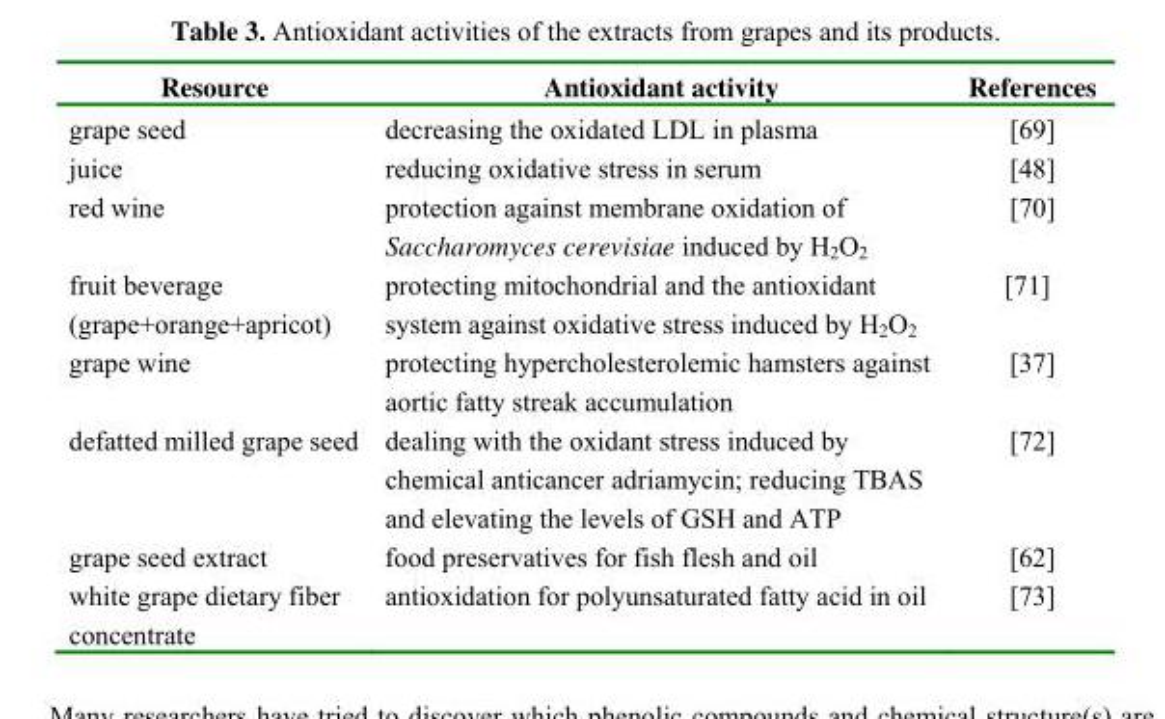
<table><thead><tr><td>Resource</td><td>Antioxidant activity</td><td>References</td></tr></thead><tbody><tr><td>grape seed</td><td>decreasing the oxidated LDL in plasma</td><td>[69]</td></tr><tr><td>juice</td><td>reducing oxidative stress in serum</td><td>[48]</td></tr><tr><td>red wine</td><td>protection against membrane oxidation of Saccharomyces cerevisiae induced by H<sub>2</sub>O<sub>2</sub></td><td>[70]</td></tr><tr><td>fruit beverage (grape+orange+apricot)</td><td>protecting mitochondrial and the antioxidant system against oxidative stress induced by H<sub>2</sub>O<sub>2</sub></td><td>[71]</td></tr><tr><td>grape wine</td><td>protecting hypercholesterolemic hamsters against aortic fatty streak accumulation</td><td>[37]</td></tr><tr><td>defatted milled grape seed</td><td>dealing with the oxidant stress induced by chemical anticancer adriamycin; reducing TBAS and elevating the levels of GSH and ATP</td><td>[72]</td></tr><tr><td>grape seed extract</td><td>food preservatives for fish flesh and oil</td><td>[62]</td></tr><tr><td>white grape dietary fiber concentrate</td><td>antioxidation for polyunsaturated fatty acid in oil</td><td>[73]</td></tr></tbody></table>